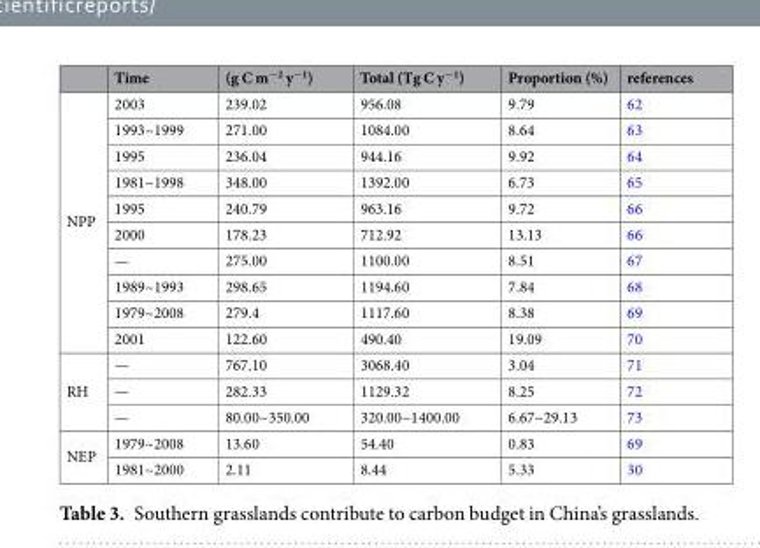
<table><thead><tr><td></td><td>Time</td><td>(g C m<sup>−2</sup> y<sup>−1</sup>)</td><td>Total (Tg C y<sup>−1</sup>)</td><td>Proportion (%)</td><td>references</td></tr></thead><tbody><tr><td rowspan="10">NPP</td><td>2003</td><td>239.02</td><td>956.08</td><td>9.79</td><td>62</td></tr><tr><td>1993~1999</td><td>271.00</td><td>1084.00</td><td>8.64</td><td>63</td></tr><tr><td>1995</td><td>236.04</td><td>944.16</td><td>9.92</td><td>64</td></tr><tr><td>1981~1998</td><td>348.00</td><td>1392.00</td><td>6.73</td><td>65</td></tr><tr><td>1995</td><td>240.79</td><td>963.16</td><td>9.72</td><td>66</td></tr><tr><td>2000</td><td>178.23</td><td>712.92</td><td>13.13</td><td>66</td></tr><tr><td>—</td><td>275.00</td><td>1100.00</td><td>8.51</td><td>67</td></tr><tr><td>1989~1993</td><td>298.65</td><td>1194.60</td><td>7.84</td><td>68</td></tr><tr><td>1979~2008</td><td>279.4</td><td>1117.60</td><td>8.38</td><td>69</td></tr><tr><td>2001</td><td>122.60</td><td>490.40</td><td>19.09</td><td>70</td></tr><tr><td rowspan="3">RH</td><td>—</td><td>767.10</td><td>3068.40</td><td>3.04</td><td>71</td></tr><tr><td>—</td><td>282.33</td><td>1129.32</td><td>8.25</td><td>72</td></tr><tr><td>—</td><td>80.00~350.00</td><td>320.00~1400.00</td><td>6.67~29.13</td><td>73</td></tr><tr><td rowspan="2">NEP</td><td>1979~2008</td><td>13.60</td><td>54.40</td><td>0.83</td><td>69</td></tr><tr><td>1981~2000</td><td>2.11</td><td>8.44</td><td>5.33</td><td>30</td></tr></tbody></table>